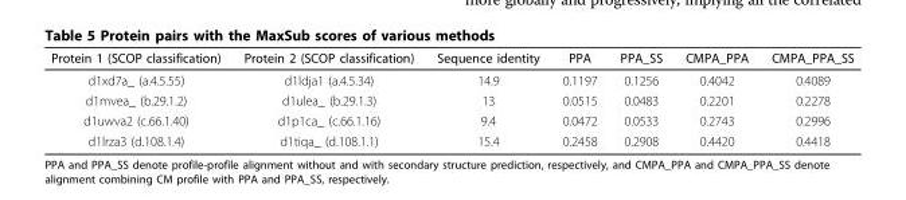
<table><thead><tr><td>Protein 1 (SCOP classification)</td><td>Protein 2 (SCOP classification)</td><td>Sequence identity</td><td>PPA</td><td>PPA_SS</td><td>CMPA_PPA</td><td>CMPA_PPA_SS</td></tr></thead><tbody><tr><td>d1xd7a_ (a.4.5.55)</td><td>d1ldja1 (a.4.5.34)</td><td>14.9</td><td>0.1197</td><td>0.1256</td><td>0.4042</td><td>0.4089</td></tr><tr><td>d1mvea_ (b.29.1.2)</td><td>d1ulea_ (b.29.1.3)</td><td>13</td><td>0.0515</td><td>0.0483</td><td>0.2201</td><td>0.2278</td></tr><tr><td>d1uwva2 (c.66.1.40)</td><td>d1p1ca_ (c.66.1.16)</td><td>9.4</td><td>0.0472</td><td>0.0533</td><td>0.2743</td><td>0.2996</td></tr><tr><td>d1lrza3 (d.108.1.4)</td><td>d1tiqa_ (d.108.1.1)</td><td>15.4</td><td>0.2458</td><td>0.2908</td><td>0.4420</td><td>0.4418</td></tr></tbody></table>